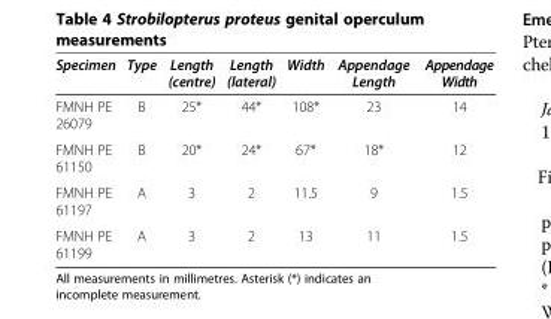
<table><thead><tr><td>Specimen</td><td>Type</td><td>Length (centre)</td><td>Length (lateral)</td><td>Width</td><td>Appendage Length</td><td>Appendage Width</td></tr></thead><tbody><tr><td>FMNH PE 26079</td><td>B</td><td>25*</td><td>44*</td><td>108*</td><td>23</td><td>14</td></tr><tr><td>FMNH PE 61150</td><td>B</td><td>20*</td><td>24*</td><td>67*</td><td>18*</td><td>12</td></tr><tr><td>FMNH PE 61197</td><td>A</td><td>3</td><td>2</td><td>11.5</td><td>9</td><td>1.5</td></tr><tr><td>FMNH PE 61199</td><td>A</td><td>3</td><td>2</td><td>13</td><td>11</td><td>1.5</td></tr></tbody></table>